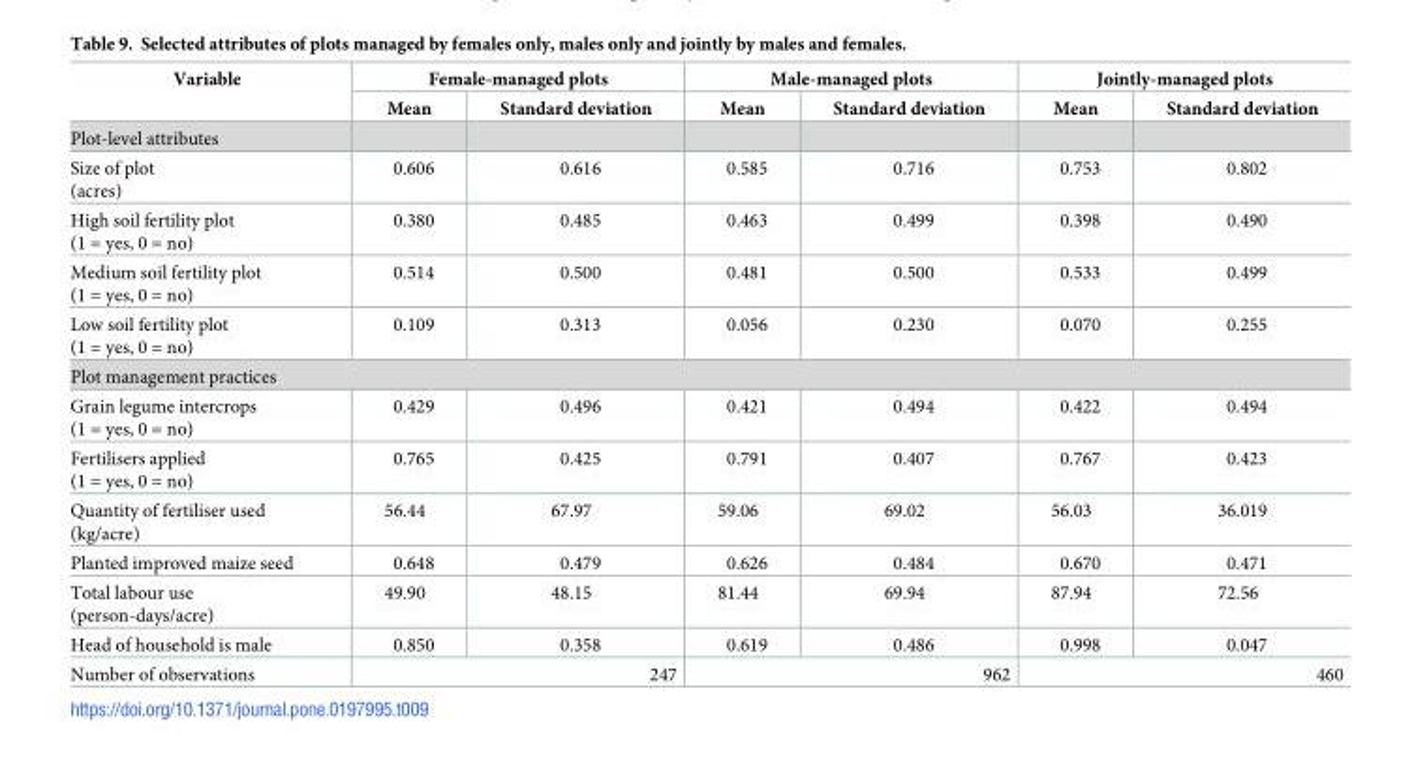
<table><thead><tr><td rowspan="2">Variable</td><td colspan="2">Female-managed plots</td><td colspan="2">Male-managed plots</td><td colspan="2">Jointly-managed plots</td></tr><tr><td>Mean</td><td>Standard deviation</td><td>Mean</td><td>Standard deviation</td><td>Mean</td><td>Standard deviation</td></tr></thead><tbody><tr><td colspan="7">Plot-level attributes</td></tr><tr><td>Size of plot (acres)</td><td>0.606</td><td>0.616</td><td>0.585</td><td>0.716</td><td>0.753</td><td>0.802</td></tr><tr><td>High soil fertility plot (1 = yes, 0 = no)</td><td>0.380</td><td>0.485</td><td>0.463</td><td>0.499</td><td>0.398</td><td>0.490</td></tr><tr><td>Medium soil fertility plot (1 = yes, 0 = no)</td><td>0.514</td><td>0.500</td><td>0.481</td><td>0.500</td><td>0.533</td><td>0.499</td></tr><tr><td>Low soil fertility plot (1 = yes, 0 = no)</td><td>0.109</td><td>0.313</td><td>0.056</td><td>0.230</td><td>0.070</td><td>0.255</td></tr><tr><td colspan="7">Plot management practices</td></tr><tr><td>Grain legume intercrops (1 = yes, 0 = no)</td><td>0.429</td><td>0.496</td><td>0.421</td><td>0.494</td><td>0.422</td><td>0.494</td></tr><tr><td>Fertilisers applied (1 = yes, 0 = no)</td><td>0.765</td><td>0.425</td><td>0.791</td><td>0.407</td><td>0.767</td><td>0.423</td></tr><tr><td>Quantity of fertiliser used (kg/acre)</td><td>56.44</td><td>67.97</td><td>59.06</td><td>69.02</td><td>56.03</td><td>36.019</td></tr><tr><td>Planted improved maize seed</td><td>0.648</td><td>0.479</td><td>0.626</td><td>0.484</td><td>0.670</td><td>0.471</td></tr><tr><td>Total labour use (person-days/acre)</td><td>49.90</td><td>48.15</td><td>81.44</td><td>69.94</td><td>87.94</td><td>72.56</td></tr><tr><td>Head of household is male</td><td>0.850</td><td>0.358</td><td>0.619</td><td>0.486</td><td>0.998</td><td>0.047</td></tr><tr><td>Number of observations</td><td colspan="2">247</td><td colspan="2">962</td><td colspan="2">460</td></tr></tbody></table>